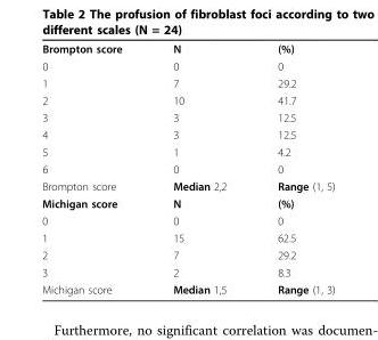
<table><tbody><tr><td>Brompton score</td><td>N</td><td>(%)</td></tr><tr><td>0</td><td>0</td><td>0</td></tr><tr><td>1</td><td>7</td><td>29.2</td></tr><tr><td>2</td><td>10</td><td>41.7</td></tr><tr><td>3</td><td>3</td><td>12.5</td></tr><tr><td>4</td><td>3</td><td>12.5</td></tr><tr><td>5</td><td>1</td><td>4.2</td></tr><tr><td>6</td><td>0</td><td>0</td></tr><tr><td>Brompton score</td><td>Median 2,2</td><td>Range (1, 5)</td></tr><tr><td>Michigan score</td><td>N</td><td>(%)</td></tr><tr><td>0</td><td>0</td><td>0</td></tr><tr><td>1</td><td>15</td><td>62.5</td></tr><tr><td>2</td><td>7</td><td>29.2</td></tr><tr><td>3</td><td>2</td><td>8.3</td></tr><tr><td>Michigan score</td><td>Median 1,5</td><td>Range (1, 3)</td></tr></tbody></table>